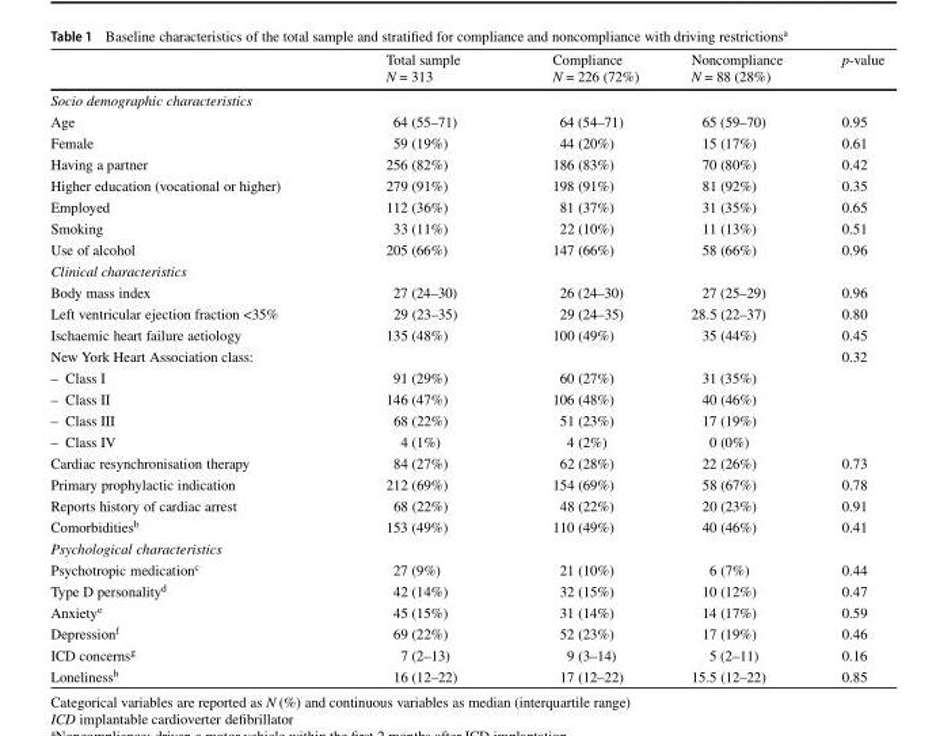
<table><thead><tr><td></td><td>Total sample N = 313</td><td>Compliance N = 226 (72%)</td><td>Noncompliance N = 88 (28%)</td><td>p-value</td></tr></thead><tbody><tr><td colspan="5">Socio demographic characteristics</td></tr><tr><td>Age</td><td>64 (55–71)</td><td>64 (54–71)</td><td>65 (59–70)</td><td>0.95</td></tr><tr><td>Female</td><td>59 (19%)</td><td>44 (20%)</td><td>15 (17%)</td><td>0.61</td></tr><tr><td>Having a partner</td><td>256 (82%)</td><td>186 (83%)</td><td>70 (80%)</td><td>0.42</td></tr><tr><td>Higher education (vocational or higher)</td><td>279 (91%)</td><td>198 (91%)</td><td>81 (92%)</td><td>0.35</td></tr><tr><td>Employed</td><td>112 (36%)</td><td>81 (37%)</td><td>31 (35%)</td><td>0.65</td></tr><tr><td>Smoking</td><td>33 (11%)</td><td>22 (10%)</td><td>11 (13%)</td><td>0.51</td></tr><tr><td>Use of alcohol</td><td>205 (66%)</td><td>147 (66%)</td><td>58 (66%)</td><td>0.96</td></tr><tr><td colspan="5">Clinical characteristics</td></tr><tr><td>Body mass index</td><td>27 (24–30)</td><td>26 (24–30)</td><td>27 (25–29)</td><td>0.96</td></tr><tr><td>Left ventricular ejection fraction &lt;35%</td><td>29 (23–35)</td><td>29 (24–35)</td><td>28.5 (22–37)</td><td>0.80</td></tr><tr><td>Ischaemic heart failure aetiology</td><td>135 (48%)</td><td>100 (49%)</td><td>35 (44%)</td><td>0.45</td></tr><tr><td colspan="4">New York Heart Association class:</td><td>0.32</td></tr><tr><td>– Class I</td><td>91 (29%)</td><td>60 (27%)</td><td>31 (35%)</td><td></td></tr><tr><td>– Class II</td><td>146 (47%)</td><td>106 (48%)</td><td>40 (46%)</td><td></td></tr><tr><td>– Class III</td><td>68 (22%)</td><td>51 (23%)</td><td>17 (19%)</td><td></td></tr><tr><td>– Class IV</td><td>4 (1%)</td><td>4 (2%)</td><td>0 (0%)</td><td></td></tr><tr><td>Cardiac resynchronisation therapy</td><td>84 (27%)</td><td>62 (28%)</td><td>22 (26%)</td><td>0.73</td></tr><tr><td>Primary prophylactic indication</td><td>212 (69%)</td><td>154 (69%)</td><td>58 (67%)</td><td>0.78</td></tr><tr><td>Reports history of cardiac arrest</td><td>68 (22%)</td><td>48 (22%)</td><td>20 (23%)</td><td>0.91</td></tr><tr><td>Comorbidities<sup>b</sup></td><td>153 (49%)</td><td>110 (49%)</td><td>40 (46%)</td><td>0.41</td></tr><tr><td colspan="5">Psychological characteristics</td></tr><tr><td>Psychotropic medication<sup>c</sup></td><td>27 (9%)</td><td>21 (10%)</td><td>6 (7%)</td><td>0.44</td></tr><tr><td>Type D personality<sup>d</sup></td><td>42 (14%)</td><td>32 (15%)</td><td>10 (12%)</td><td>0.47</td></tr><tr><td>Anxiety<sup>e</sup></td><td>45 (15%)</td><td>31 (14%)</td><td>14 (17%)</td><td>0.59</td></tr><tr><td>Depression<sup>f</sup></td><td>69 (22%)</td><td>52 (23%)</td><td>17 (19%)</td><td>0.46</td></tr><tr><td>ICD concerns<sup>g</sup></td><td>7 (2–13)</td><td>9 (3–14)</td><td>5 (2–11)</td><td>0.16</td></tr><tr><td>Loneliness<sup>h</sup></td><td>16 (12–22)</td><td>17 (12–22)</td><td>15.5 (12–22)</td><td>0.85</td></tr></tbody></table>